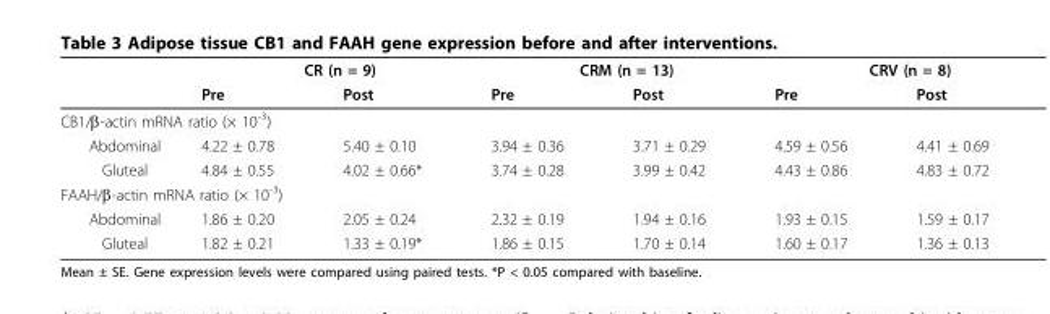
<table><thead><tr><td rowspan="2"></td><td colspan="2">CR (n = 9)</td><td colspan="2">CRM (n = 13)</td><td colspan="2">CRV (n = 8)</td></tr><tr><td>Pre</td><td>Post</td><td>Pre</td><td>Post</td><td>Pre</td><td>Post</td></tr></thead><tbody><tr><td colspan="7">CB1/β-actin mRNA ratio (× 10<sup>-3</sup>)</td></tr><tr><td>Abdominal</td><td>4.22 ± 0.78</td><td>5.40 ± 0.10</td><td>3.94 ± 0.36</td><td>3.71 ± 0.29</td><td>4.59 ± 0.56</td><td>4.41 ± 0.69</td></tr><tr><td>Gluteal</td><td>4.84 ± 0.55</td><td>4.02 ± 0.66*</td><td>3.74 ± 0.28</td><td>3.99 ± 0.42</td><td>4.43 ± 0.86</td><td>4.83 ± 0.72</td></tr><tr><td colspan="7">FAAH/β-actin mRNA ratio (× 10<sup>-3</sup>)</td></tr><tr><td>Abdominal</td><td>1.86 ± 0.20</td><td>2.05 ± 0.24</td><td>2.32 ± 0.19</td><td>1.94 ± 0.16</td><td>1.93 ± 0.15</td><td>1.59 ± 0.17</td></tr><tr><td>Gluteal</td><td>1.82 ± 0.21</td><td>1.33 ± 0.19*</td><td>1.86 ± 0.15</td><td>1.70 ± 0.14</td><td>1.60 ± 0.17</td><td>1.36 ± 0.13</td></tr></tbody></table>